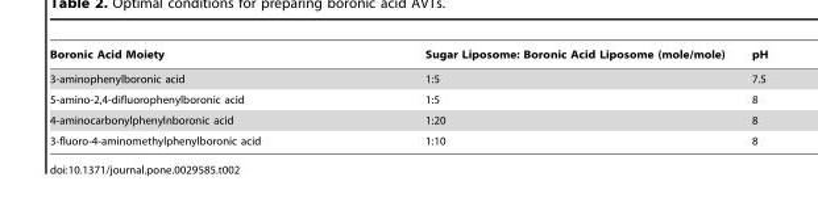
<table><thead><tr><td>Boronic Acid Moiety</td><td>Sugar Liposome: Boronic Acid Liposome (mole/mole)</td><td>pH</td></tr></thead><tbody><tr><td>3-aminophenylboronic acid</td><td>1:5</td><td>7.5</td></tr><tr><td>5-amino-2,4-difluorophenylboronic acid</td><td>1:5</td><td>8</td></tr><tr><td>4-aminocarbonylphenylnboronic acid</td><td>1:20</td><td>8</td></tr><tr><td>3-fluoro-4-aminomethylphenylboronic acid</td><td>1:10</td><td>8</td></tr></tbody></table>